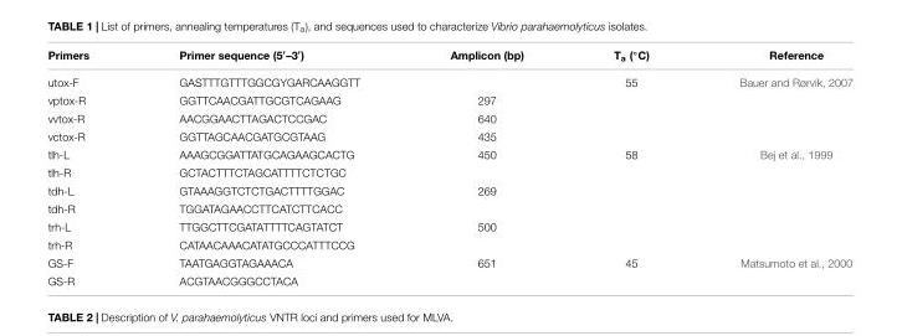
<table><thead><tr><td>Primers</td><td>Primer sequence (5′–3′)</td><td>Amplicon (bp)</td><td>Ta (◦C)</td><td>Reference</td></tr></thead><tbody><tr><td>utox-F</td><td>GASTTTGTTTGGCGYGARCAAGGTT</td><td></td><td>55</td><td>Bauer and Rørvik, 2007</td></tr><tr><td>vptox-R</td><td>GGTTCAACGATTGCGTCAGAAG</td><td>297</td><td></td><td></td></tr><tr><td>vvtox-R</td><td>AACGGAACTTAGACTCCGAC</td><td>640</td><td></td><td></td></tr><tr><td>vctox-R</td><td>GGTTAGCAACGATGCGTAAG</td><td>435</td><td></td><td></td></tr><tr><td>tlh-L</td><td>AAAGCGGATTATGCAGAAGCACTG</td><td>450</td><td>58</td><td>Bej et al., 1999</td></tr><tr><td>tlh-R</td><td>GCTACTTTCTAGCATTTTCTCTGC</td><td></td><td></td><td></td></tr><tr><td>tdh-L</td><td>GTAAAGGTCTCTGACTTTTGGAC</td><td>269</td><td></td><td></td></tr><tr><td>tdh-R</td><td>TGGATAGAACCTTCATCTTCACC</td><td></td><td></td><td></td></tr><tr><td>trh-L</td><td>TTGGCTTCGATATTTTCAGTATCT</td><td>500</td><td></td><td></td></tr><tr><td>trh-R</td><td>CATAACAAACATATGCCCATTTCCG</td><td></td><td></td><td></td></tr><tr><td>GS-F</td><td>TAATGAGGTAGAAACA</td><td>651</td><td>45</td><td>Matsumoto et al., 2000</td></tr><tr><td>GS-R</td><td>ACGTAACGGGCCTACA</td><td></td><td></td><td></td></tr></tbody></table>